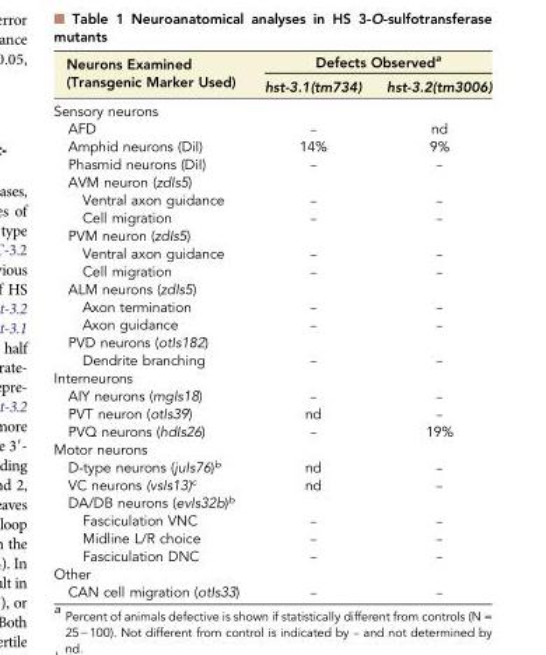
<table><thead><tr><td rowspan="2">Neurons Examined (Transgenic Marker Used)</td><td colspan="2">Defects Observed<sup>a</sup></td></tr><tr><td>hst-3.1(tm734)</td><td>hst-3.2(tm3006)</td></tr></thead><tbody><tr><td colspan="3">Sensory neurons</td></tr><tr><td>AFD</td><td>–</td><td>nd</td></tr><tr><td>Amphid neurons (DiI)</td><td>14%</td><td>9%</td></tr><tr><td>Phasmid neurons (DiI)</td><td>–</td><td>–</td></tr><tr><td colspan="3">AVM neuron (zdIs5)</td></tr><tr><td>Ventral axon guidance</td><td>–</td><td>–</td></tr><tr><td>Cell migration</td><td>–</td><td>–</td></tr><tr><td colspan="3">PVM neuron (zdIs5)</td></tr><tr><td>Ventral axon guidance</td><td>–</td><td>–</td></tr><tr><td>Cell migration</td><td>–</td><td>–</td></tr><tr><td colspan="3">ALM neurons (zdIs5)</td></tr><tr><td>Axon termination</td><td>–</td><td>–</td></tr><tr><td>Axon guidance</td><td>–</td><td>–</td></tr><tr><td colspan="3">PVD neurons (otIs182)</td></tr><tr><td>Dendrite branching</td><td>–</td><td>–</td></tr><tr><td colspan="3">Interneurons</td></tr><tr><td>AIY neurons (mgIs18)</td><td>–</td><td>–</td></tr><tr><td>PVT neuron (otIs39)</td><td>nd</td><td>–</td></tr><tr><td>PVQ neurons (hdIs26)</td><td>–</td><td>19%</td></tr><tr><td colspan="3">Motor neurons</td></tr><tr><td>D-type neurons (juIs76)<sup>b</sup></td><td>nd</td><td>–</td></tr><tr><td>VC neurons (vsIs13)<sup>c</sup></td><td>nd</td><td>–</td></tr><tr><td colspan="3">DA/DB neurons (evIs32b)<sup>b</sup></td></tr><tr><td>Fasciculation VNC</td><td>–</td><td>–</td></tr><tr><td>Midline L/R choice</td><td>–</td><td>–</td></tr><tr><td>Fasciculation DNC</td><td>–</td><td>–</td></tr><tr><td colspan="3">Other</td></tr><tr><td>CAN cell migration (otIs33)</td><td>–</td><td>–</td></tr></tbody></table>